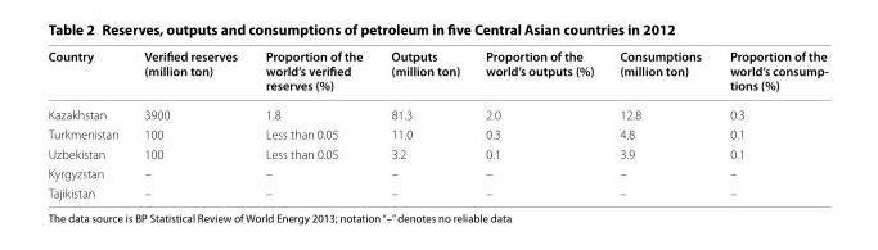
<table><thead><tr><td>Country</td><td>Verified reserves (million ton)</td><td>Proportion of the world’s verified reserves (%)</td><td>Outputs (million ton)</td><td>Proportion of the world’s outputs (%)</td><td>Consumptions (million ton)</td><td>Proportion of the world’s consump‑ tions (%)</td></tr></thead><tbody><tr><td>Kazakhstan</td><td>3900</td><td>1.8</td><td>81.3</td><td>2.0</td><td>12.8</td><td>0.3</td></tr><tr><td>Turkmenistan</td><td>100</td><td>Less than 0.05</td><td>11.0</td><td>0.3</td><td>4.8</td><td>0.1</td></tr><tr><td>Uzbekistan</td><td>100</td><td>Less than 0.05</td><td>3.2</td><td>0.1</td><td>3.9</td><td>0.1</td></tr><tr><td>Kyrgyzstan</td><td>–</td><td>–</td><td>–</td><td>–</td><td>–</td><td>–</td></tr><tr><td>Tajikistan</td><td>–</td><td>–</td><td>–</td><td>–</td><td>–</td><td>–</td></tr></tbody></table>